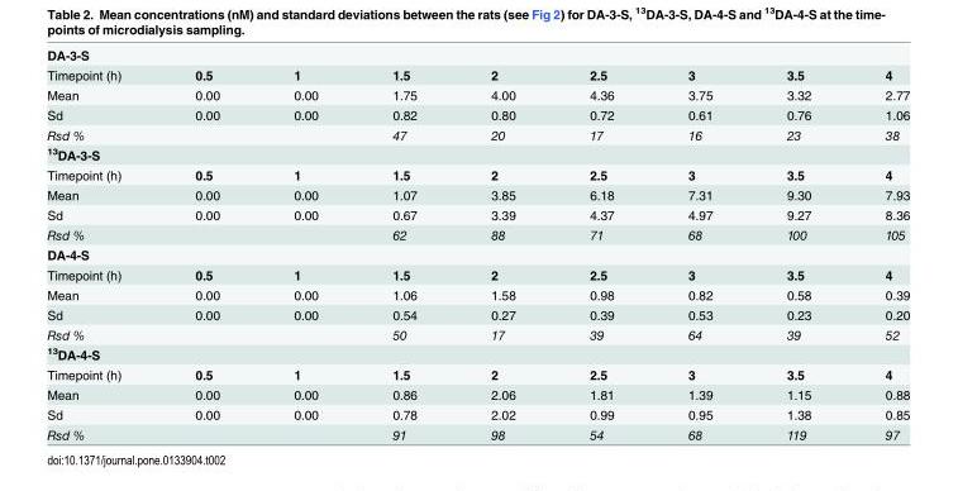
<table><tbody><tr><td colspan="9">DA-3-S</td></tr><tr><td>Timepoint (h)</td><td>0.5</td><td>1</td><td>1.5</td><td>2</td><td>2.5</td><td>3</td><td>3.5</td><td>4</td></tr><tr><td>Mean</td><td>0.00</td><td>0.00</td><td>1.75</td><td>4.00</td><td>4.36</td><td>3.75</td><td>3.32</td><td>2.77</td></tr><tr><td>Sd</td><td>0.00</td><td>0.00</td><td>0.82</td><td>0.80</td><td>0.72</td><td>0.61</td><td>0.76</td><td>1.06</td></tr><tr><td>Rsd %</td><td></td><td></td><td>47</td><td>20</td><td>17</td><td>16</td><td>23</td><td>38</td></tr><tr><td colspan="9"><sup>13</sup>DA-3-S</td></tr><tr><td>Timepoint (h)</td><td>0.5</td><td>1</td><td>1.5</td><td>2</td><td>2.5</td><td>3</td><td>3.5</td><td>4</td></tr><tr><td>Mean</td><td>0.00</td><td>0.00</td><td>1.07</td><td>3.85</td><td>6.18</td><td>7.31</td><td>9.30</td><td>7.93</td></tr><tr><td>Sd</td><td>0.00</td><td>0.00</td><td>0.67</td><td>3.39</td><td>4.37</td><td>4.97</td><td>9.27</td><td>8.36</td></tr><tr><td>Rsd %</td><td></td><td></td><td>62</td><td>88</td><td>71</td><td>68</td><td>100</td><td>105</td></tr><tr><td colspan="9">DA-4-S</td></tr><tr><td>Timepoint (h)</td><td>0.5</td><td>1</td><td>1.5</td><td>2</td><td>2.5</td><td>3</td><td>3.5</td><td>4</td></tr><tr><td>Mean</td><td>0.00</td><td>0.00</td><td>1.06</td><td>1.58</td><td>0.98</td><td>0.82</td><td>0.58</td><td>0.39</td></tr><tr><td>Sd</td><td>0.00</td><td>0.00</td><td>0.54</td><td>0.27</td><td>0.39</td><td>0.53</td><td>0.23</td><td>0.20</td></tr><tr><td>Rsd %</td><td></td><td></td><td>50</td><td>17</td><td>39</td><td>64</td><td>39</td><td>52</td></tr><tr><td colspan="9"><sup>13</sup>DA-4-S</td></tr><tr><td>Timepoint (h)</td><td>0.5</td><td>1</td><td>1.5</td><td>2</td><td>2.5</td><td>3</td><td>3.5</td><td>4</td></tr><tr><td>Mean</td><td>0.00</td><td>0.00</td><td>0.86</td><td>2.06</td><td>1.81</td><td>1.39</td><td>1.15</td><td>0.88</td></tr><tr><td>Sd</td><td>0.00</td><td>0.00</td><td>0.78</td><td>2.02</td><td>0.99</td><td>0.95</td><td>1.38</td><td>0.85</td></tr><tr><td>Rsd %</td><td></td><td></td><td>91</td><td>98</td><td>54</td><td>68</td><td>119</td><td>97</td></tr></tbody></table>